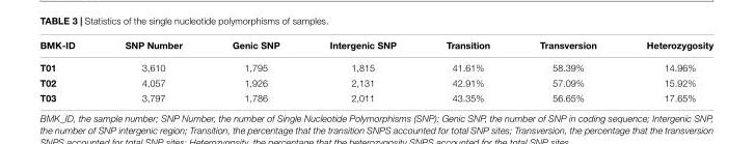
<table><thead><tr><td>BMK-ID</td><td>SNP Number</td><td>Genic SNP</td><td>Intergenic SNP</td><td>Transition</td><td>Transversion</td><td>Heterozygosity</td></tr></thead><tbody><tr><td>T01</td><td>3,610</td><td>1,795</td><td>1,815</td><td>41.61%</td><td>58.39%</td><td>14.96%</td></tr><tr><td>T02</td><td>4,057</td><td>1,926</td><td>2,131</td><td>42.91%</td><td>57.09%</td><td>15.92%</td></tr><tr><td>T03</td><td>3,797</td><td>1,786</td><td>2,011</td><td>43.35%</td><td>56.65%</td><td>17.65%</td></tr></tbody></table>